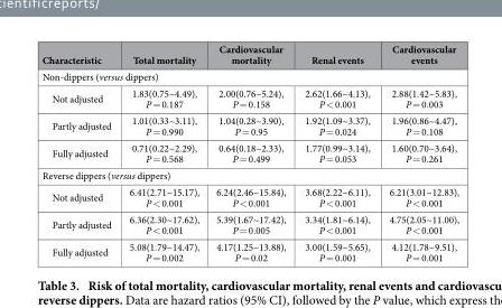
<table><thead><tr><td>Characteristic</td><td>Total mortality</td><td>Cardiovascular mortality</td><td>Renal events</td><td>Cardiovascular events</td></tr></thead><tbody><tr><td colspan="5">Non-dippers (versus dippers)</td></tr><tr><td>Not adjusted</td><td>1.83(0.75~4.49), P = 0.187</td><td>2.00(0.76~5.24), P = 0.158</td><td>2.62(1.66~4.13), P &lt; 0.001</td><td>2.88(1.42~5.83), P = 0.003</td></tr><tr><td>Partly adjusted</td><td>1.01(0.33~3.11), P = 0.990</td><td>1.04(0.28~3.90), P = 0.95</td><td>1.92(1.09~3.37), P = 0.024</td><td>1.96(0.86~4.47), P = 0.108</td></tr><tr><td>Fully adjusted</td><td>0.71(0.22~2.29), P = 0.568</td><td>0.64(0.18~2.33), P = 0.499</td><td>1.77(0.99~3.14), P = 0.053</td><td>1.60(0.70~3.64), P = 0.261</td></tr><tr><td colspan="5">Reverse dippers (versus dippers)</td></tr><tr><td>Not adjusted</td><td>6.41(2.71~15.17), P &lt; 0.001</td><td>6.24(2.46~15.84), P &lt; 0.001</td><td>3.68(2.22~6.11), P &lt; 0.001</td><td>6.21(3.01~12.83), P &lt; 0.001</td></tr><tr><td>Partly adjusted</td><td>6.36(2.30~17.62), P &lt; 0.001</td><td>5.39(1.67~17.42), P = 0.005</td><td>3.34(1.81~6.14), P &lt; 0.001</td><td>4.75(2.05~11.00), P &lt; 0.001</td></tr><tr><td>Fully adjusted</td><td>5.08(1.79~14.47), P = 0.002</td><td>4.17(1.25~13.88), P = 0.02</td><td>3.00(1.59~5.65), P = 0.001</td><td>4.12(1.78~9.51), P = 0.001</td></tr></tbody></table>